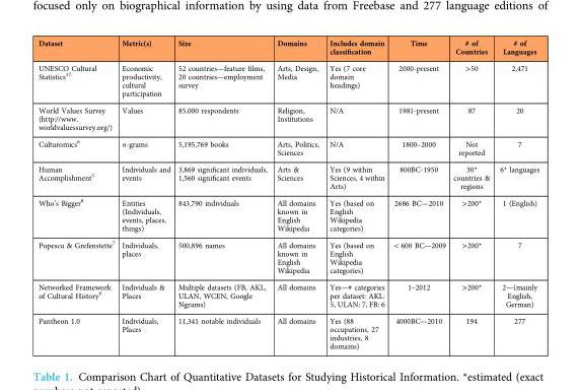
<table><thead><tr><td>Dataset</td><td>Metric(s)</td><td>Size</td><td>Domains</td><td>Includes domain classification</td><td>Time</td><td># of Countries</td><td># of Languages</td></tr></thead><tbody><tr><td>UNESCO Cultural Statistics<sup>17</sup></td><td>Economic productivity, cultural participation</td><td>52 countries—feature films, 20 countries—employment survey</td><td>Arts, Design, Media</td><td>Yes (7 core domain headings)</td><td>2000-present</td><td>&gt;50</td><td>2,471</td></tr><tr><td>World Values Survey (http://www. worldvaluessurvey.org/)</td><td>Values</td><td>85,000 respondents</td><td>Religion, Institutions</td><td>N/A</td><td>1981-present</td><td>87</td><td>20</td></tr><tr><td>Culturomics<sup>6</sup></td><td>n-grams</td><td>5,195,769 books</td><td>Arts, Politics, Sciences</td><td>N/A</td><td>1800–2000</td><td>Not reported</td><td>7</td></tr><tr><td>Human Accomplishment<sup>5</sup></td><td>Individuals and events</td><td>3,869 significant individuals, 1,560 significant events</td><td>Arts &amp; Sciences</td><td>Yes (9 within Sciences, 4 within Arts)</td><td>800BC-1950</td><td>30* countries &amp; regions</td><td>6* languages</td></tr><tr><td>Who’s Bigger<sup>8</sup></td><td>Entities (Individuals, events, places, things)</td><td>843,790 individuals</td><td>All domains known in English Wikipedia</td><td>Yes (based on English Wikipedia categories)</td><td>2686 BC—2010</td><td>&gt;200*</td><td>1 (English)</td></tr><tr><td>Popescu &amp; Grefenstette<sup>7</sup></td><td>Individuals, places</td><td>500,896 names</td><td>All domains known in English Wikipedia</td><td>Yes (based on English Wikipedia categories)</td><td>&lt;600 BC—2009</td><td>&gt;200*</td><td>7</td></tr><tr><td>Networked Framework of Cultural History<sup>9</sup></td><td>Individuals &amp; Places</td><td>Multiple datasets (FB, AKL, ULAN, WCEN, Google Ngrams)</td><td>All domains</td><td>Yes—# categories per dataset: AKL: 5, ULAN: 7, FB: 6</td><td>1–2012</td><td>&gt;200*</td><td>2—(mainly English, German)</td></tr><tr><td>Pantheon 1.0</td><td>Individuals, Places</td><td>11,341 notable individuals</td><td>All domains</td><td>Yes (88 occupations, 27 industries, 8 domains)</td><td>4000BC—2010</td><td>194</td><td>277</td></tr></tbody></table>